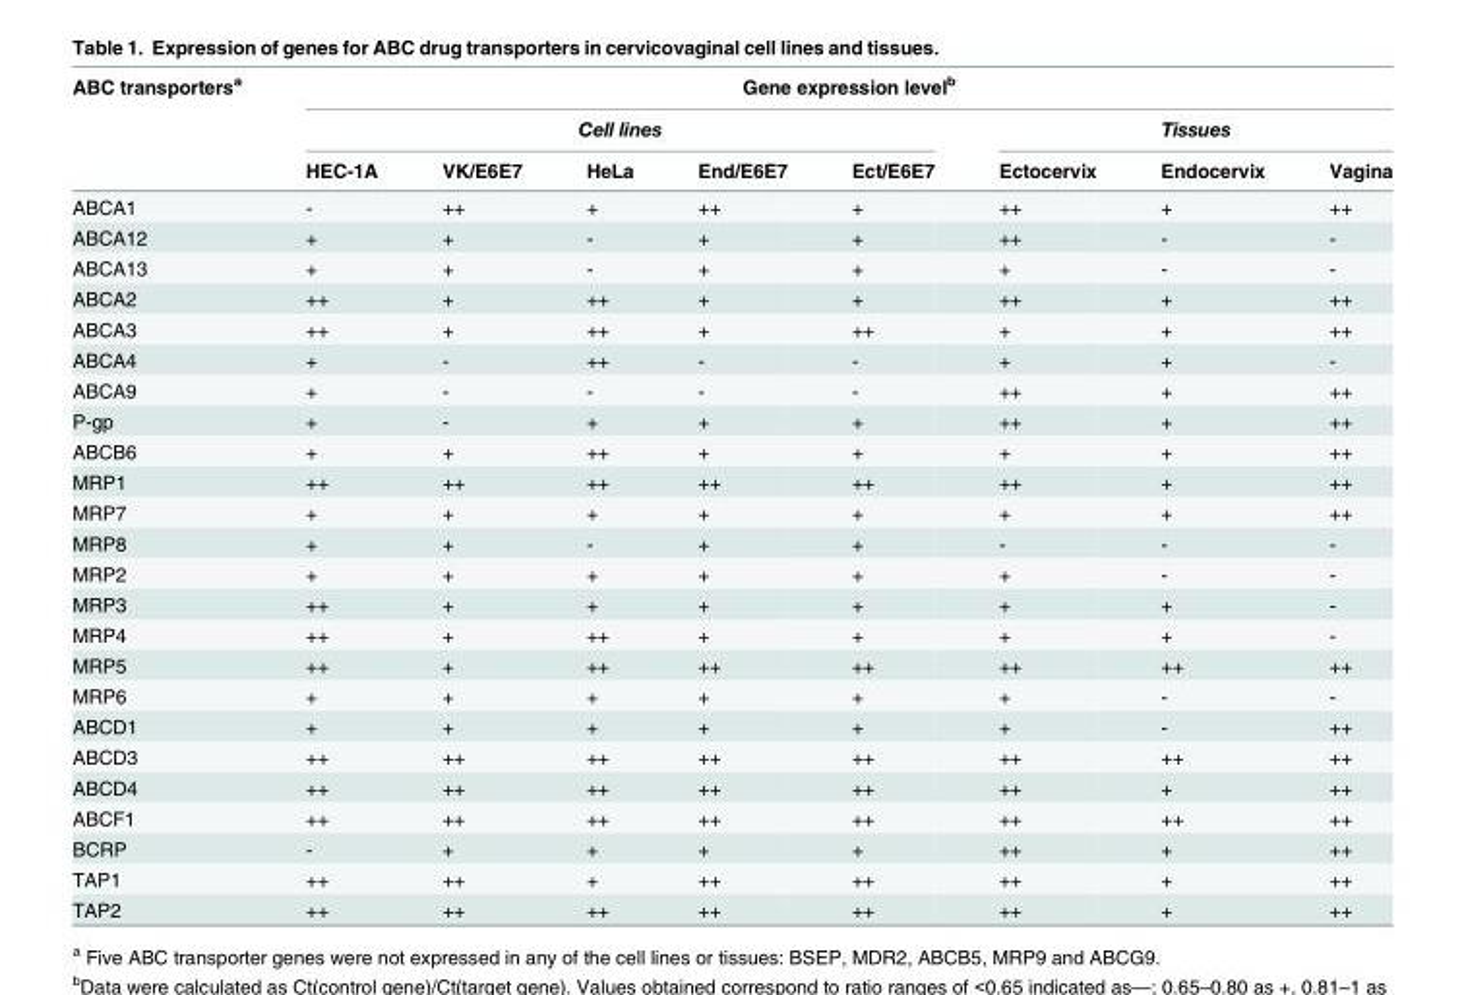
<table><thead><tr><td rowspan="3">ABC transporters<sup>a</sup></td><td colspan="8">Gene expression level<sup>b</sup></td></tr><tr><td colspan="5">Cell lines</td><td colspan="3">Tissues</td></tr><tr><td>HEC-1A</td><td>VK/E6E7</td><td>HeLa</td><td>End/E6E7</td><td>Ect/E6E7</td><td>Ectocervix</td><td>Endocervix</td><td>Vagina</td></tr></thead><tbody><tr><td>ABCA1</td><td>-</td><td>++</td><td>+</td><td>++</td><td>+</td><td>++</td><td>+</td><td>++</td></tr><tr><td>ABCA12</td><td>+</td><td>+</td><td>-</td><td>+</td><td>+</td><td>++</td><td>-</td><td>-</td></tr><tr><td>ABCA13</td><td>+</td><td>+</td><td>-</td><td>+</td><td>+</td><td>+</td><td>-</td><td>-</td></tr><tr><td>ABCA2</td><td>++</td><td>+</td><td>++</td><td>+</td><td>+</td><td>++</td><td>+</td><td>++</td></tr><tr><td>ABCA3</td><td>++</td><td>+</td><td>++</td><td>+</td><td>++</td><td>+</td><td>+</td><td>++</td></tr><tr><td>ABCA4</td><td>+</td><td>-</td><td>++</td><td>-</td><td>-</td><td>+</td><td>+</td><td>-</td></tr><tr><td>ABCA9</td><td>+</td><td>-</td><td>-</td><td>-</td><td>-</td><td>++</td><td>+</td><td>++</td></tr><tr><td>P-gp</td><td>+</td><td>-</td><td>+</td><td>+</td><td>+</td><td>++</td><td>+</td><td>++</td></tr><tr><td>ABCB6</td><td>+</td><td>+</td><td>++</td><td>+</td><td>+</td><td>+</td><td>+</td><td>++</td></tr><tr><td>MRP1</td><td>++</td><td>++</td><td>++</td><td>++</td><td>++</td><td>++</td><td>+</td><td>++</td></tr><tr><td>MRP7</td><td>+</td><td>+</td><td>+</td><td>+</td><td>+</td><td>+</td><td>+</td><td>++</td></tr><tr><td>MRP8</td><td>+</td><td>+</td><td>-</td><td>+</td><td>+</td><td>-</td><td>-</td><td>-</td></tr><tr><td>MRP2</td><td>+</td><td>+</td><td>+</td><td>+</td><td>+</td><td>+</td><td>-</td><td>-</td></tr><tr><td>MRP3</td><td>++</td><td>+</td><td>+</td><td>+</td><td>+</td><td>+</td><td>+</td><td>-</td></tr><tr><td>MRP4</td><td>++</td><td>+</td><td>++</td><td>+</td><td>+</td><td>+</td><td>+</td><td>-</td></tr><tr><td>MRP5</td><td>++</td><td>+</td><td>++</td><td>++</td><td>++</td><td>++</td><td>++</td><td>++</td></tr><tr><td>MRP6</td><td>+</td><td>+</td><td>+</td><td>+</td><td>+</td><td>+</td><td>-</td><td>-</td></tr><tr><td>ABCD1</td><td>+</td><td>+</td><td>+</td><td>+</td><td>+</td><td>+</td><td>-</td><td>++</td></tr><tr><td>ABCD3</td><td>++</td><td>++</td><td>++</td><td>++</td><td>++</td><td>++</td><td>++</td><td>++</td></tr><tr><td>ABCD4</td><td>++</td><td>++</td><td>++</td><td>++</td><td>++</td><td>++</td><td>+</td><td>++</td></tr><tr><td>ABCF1</td><td>++</td><td>++</td><td>++</td><td>++</td><td>++</td><td>++</td><td>++</td><td>++</td></tr><tr><td>BCRP</td><td>-</td><td>+</td><td>+</td><td>+</td><td>+</td><td>++</td><td>+</td><td>++</td></tr><tr><td>TAP1</td><td>++</td><td>++</td><td>+</td><td>++</td><td>++</td><td>++</td><td>+</td><td>++</td></tr><tr><td>TAP2</td><td>++</td><td>++</td><td>++</td><td>++</td><td>++</td><td>++</td><td>+</td><td>++</td></tr></tbody></table>